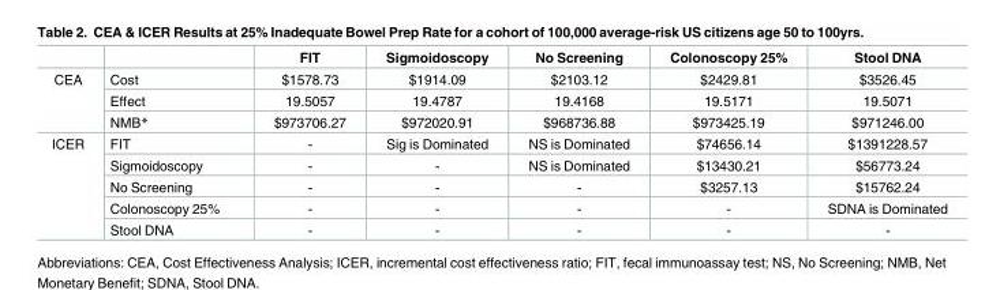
<table><thead><tr><td></td><td></td><td>FIT</td><td>Sigmoidoscopy</td><td>No Screening</td><td>Colonoscopy 25%</td><td>Stool DNA</td></tr></thead><tbody><tr><td rowspan="3">CEA</td><td>Cost</td><td>$1578.73</td><td>$1914.09</td><td>$2103.12</td><td>$2429.81</td><td>$3526.45</td></tr><tr><td>Effect</td><td>19.5057</td><td>19.4787</td><td>19.4168</td><td>19.5171</td><td>19.5071</td></tr><tr><td>NMB*</td><td>$973706.27</td><td>$972020.91</td><td>$968736.88</td><td>$973425.19</td><td>$971246.00</td></tr><tr><td rowspan="5">ICER</td><td>FIT</td><td>-</td><td>Sig is Dominated</td><td>NS is Dominated</td><td>$74656.14</td><td>$1391228.57</td></tr><tr><td>Sigmoidoscopy</td><td>-</td><td>-</td><td>NS is Dominated</td><td>$13430.21</td><td>$56773.24</td></tr><tr><td>No Screening</td><td>-</td><td>-</td><td>-</td><td>$3257.13</td><td>$15762.24</td></tr><tr><td>Colonoscopy 25%</td><td>-</td><td>-</td><td>-</td><td>-</td><td>SDNA is Dominated</td></tr><tr><td>Stool DNA</td><td>-</td><td>-</td><td>-</td><td>-</td><td>-</td></tr></tbody></table>